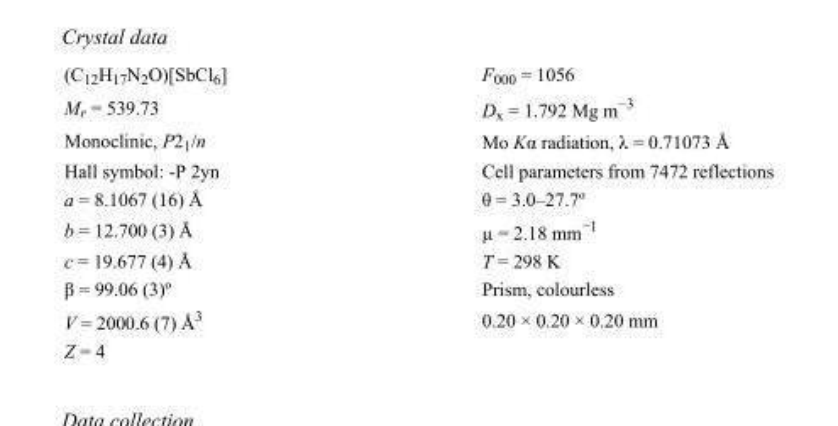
<table><tbody><tr><td>(C<sub>12</sub>H<sub>17</sub>N<sub>2</sub>O)[SbCl<sub>6</sub>]</td><td>F000 = 1056</td></tr><tr><td>M<sub>r</sub> = 539.73</td><td>D<sub>x</sub> = 1.792 Mg m<sup>−3</sup></td></tr><tr><td>Monoclinic, P2<sub>1</sub>/n</td><td>Mo Kα radiation, λ = 0.71073 Å</td></tr><tr><td>Hall symbol: -P 2yn</td><td>Cell parameters from 7472 reflections</td></tr><tr><td>a = 8.1067 (16) Å</td><td>θ = 3.0–27.7º</td></tr><tr><td>b = 12.700 (3) Å</td><td>µ = 2.18 mm<sup>−1</sup></td></tr><tr><td>c = 19.677 (4) Å</td><td>T = 298 K</td></tr><tr><td>β = 99.06 (3)º</td><td>Prism, colourless</td></tr><tr><td>V = 2000.6 (7) Å<sup>3</sup></td><td>0.20 × 0.20 × 0.20 mm</td></tr><tr><td>Z = 4</td><td></td></tr></tbody></table>